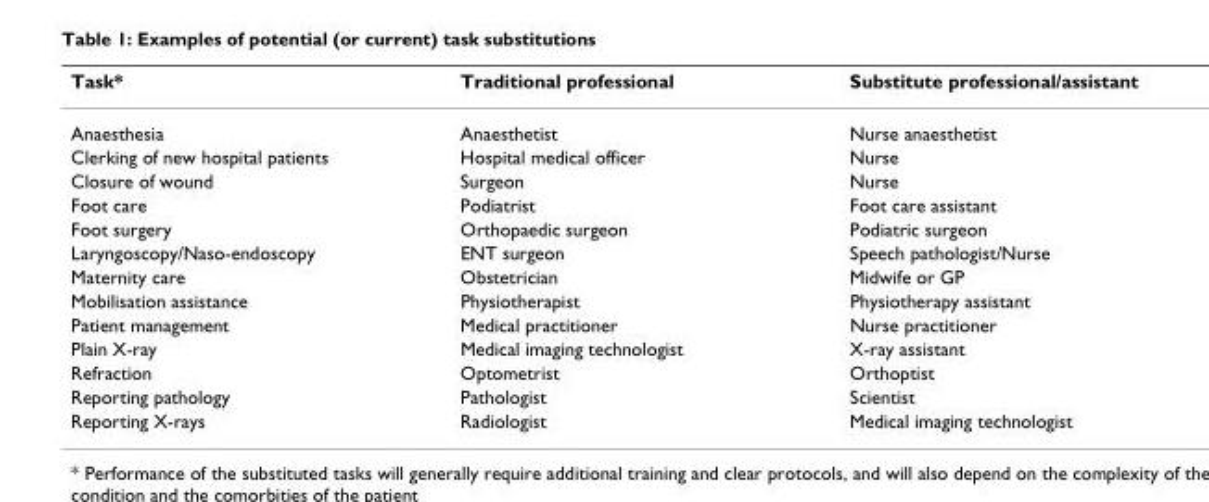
<table><thead><tr><td>Task*</td><td>Traditional professional</td><td>Substitute professional/assistant</td></tr></thead><tbody><tr><td>Anaesthesia</td><td>Anaesthetist</td><td>Nurse anaesthetist</td></tr><tr><td>Clerking of new hospital patients</td><td>Hospital medical officer</td><td>Nurse</td></tr><tr><td>Closure of wound</td><td>Surgeon</td><td>Nurse</td></tr><tr><td>Foot care</td><td>Podiatrist</td><td>Foot care assistant</td></tr><tr><td>Foot surgery</td><td>Orthopaedic surgeon</td><td>Podiatric surgeon</td></tr><tr><td>Laryngoscopy/Naso-endoscopy</td><td>ENT surgeon</td><td>Speech pathologist/Nurse</td></tr><tr><td>Maternity care</td><td>Obstetrician</td><td>Midwife or GP</td></tr><tr><td>Mobilisation assistance</td><td>Physiotherapist</td><td>Physiotherapy assistant</td></tr><tr><td>Patient management</td><td>Medical practitioner</td><td>Nurse practitioner</td></tr><tr><td>Plain X-ray</td><td>Medical imaging technologist</td><td>X-ray assistant</td></tr><tr><td>Refraction</td><td>Optometrist</td><td>Orthoptist</td></tr><tr><td>Reporting pathology</td><td>Pathologist</td><td>Scientist</td></tr><tr><td>Reporting X-rays</td><td>Radiologist</td><td>Medical imaging technologist</td></tr></tbody></table>